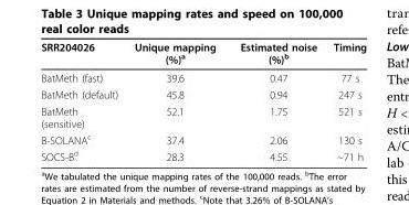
<table><thead><tr><td>SRR204026</td><td>Unique mapping (%)<sup>a</sup></td><td>Estimated noise (%)<sup>b</sup></td><td>Timing</td></tr></thead><tbody><tr><td>BatMeth (fast)</td><td>39.6</td><td>0.47</td><td>77 s</td></tr><tr><td>BatMeth (default)</td><td>45.8</td><td>0.94</td><td>247 s</td></tr><tr><td>BatMeth (sensitive)</td><td>52.1</td><td>1.75</td><td>521 s</td></tr><tr><td>B-SOLANA<sup>c</sup></td><td>37.4</td><td>2.06</td><td>130 s</td></tr><tr><td>SOCS-B<sup>d</sup></td><td>28.3</td><td>4.55</td><td>~71 h</td></tr></tbody></table>